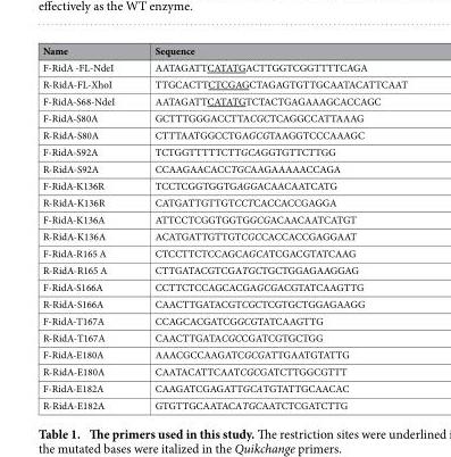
<table><thead><tr><td>Name</td><td>Sequence</td></tr></thead><tbody><tr><td>F-RidA -FL-NdeI</td><td>AATAGATTCATATGACTTGGTCGGTTTTCAGA</td></tr><tr><td>R-RidA-FL-XhoI</td><td>TTGCACTTCTCGAGCTAGAGTGTTGCAATACATTCAAT</td></tr><tr><td>F-RidA-S68-NdeI</td><td>AATAGATTCATATGTCTACTGAGAAAGCACCAGC</td></tr><tr><td>F-RidA-S80A</td><td>GCTTTGGGACCTTACGCTCAGGCCATTAAAG</td></tr><tr><td>R-RidA-S80A</td><td>CTTTAATGGCCTGAGCGTAAGGTCCCAAAGC</td></tr><tr><td>F-RidA-S92A</td><td>TCTGGTTTTTCTTGCAGGTGTTCTTGG</td></tr><tr><td>R-RidA-S92A</td><td>CCAAGAACACCTGCAAGAAAAACCAGA</td></tr><tr><td>F-RidA-K136R</td><td>TCCTCGGTGGTGAGGACAACAATCATG</td></tr><tr><td>R-RidA-K136R</td><td>CATGATTGTTGTCCTCACCACCGAGGA</td></tr><tr><td>F-RidA-K136A</td><td>ATTCCTCGGTGGTGGCGACAACAATCATGT</td></tr><tr><td>R-RidA-K136A</td><td>ACATGATTGTTGTCGCCACCACCGAGGAAT</td></tr><tr><td>F-RidA-R165 A</td><td>CTCCTTCTCCAGCAGCATCGACGTATCAAG</td></tr><tr><td>R-RidA-R165 A</td><td>CTTGATACGTCGATGCTGCTGGAGAAGGAG</td></tr><tr><td>F-RidA-S166A</td><td>CCTTCTCCAGCACGAGCGACGTATCAAGTTG</td></tr><tr><td>R-RidA-S166A</td><td>CAACTTGATACGTCGCTCGTGCTGGAGAAGG</td></tr><tr><td>F-RidA-T167A</td><td>CCAGCACGATCGGCGTATCAAGTTG</td></tr><tr><td>R-RidA-T167A</td><td>CAACTTGATACGCCGATCGTGCTGG</td></tr><tr><td>F-RidA-E180A</td><td>AAACGCCAAGATCGCGATTGAATGTATTG</td></tr><tr><td>R-RidA-E180A</td><td>CAATACATTCAATCGCGATCTTGGCGTTT</td></tr><tr><td>F-RidA-E182A</td><td>CAAGATCGAGATTGCATGTATTGCAACAC</td></tr><tr><td>R-RidA-E182A</td><td>GTGTTGCAATACATGCAATCTCGATCTTG</td></tr></tbody></table>